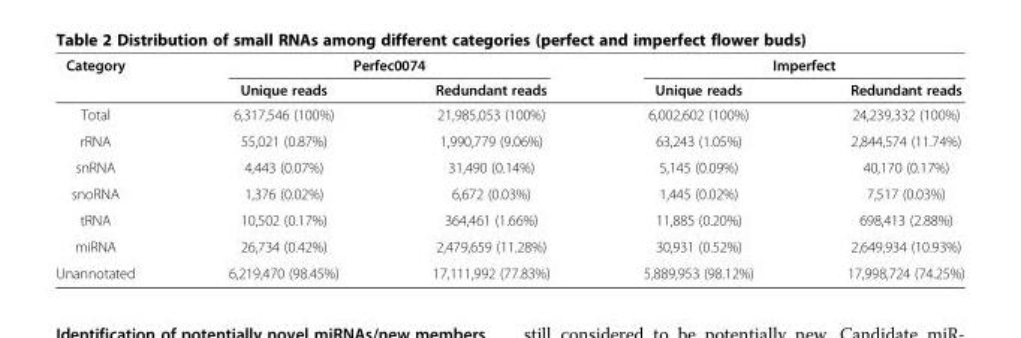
<table><thead><tr><td rowspan="2">Category</td><td colspan="2">Perfec0074</td><td colspan="2">Imperfect</td></tr><tr><td>Unique reads</td><td>Redundant reads</td><td>Unique reads</td><td>Redundant reads</td></tr></thead><tbody><tr><td>Total</td><td>6,317,546 (100%)</td><td>21,985,053 (100%)</td><td>6,002,602 (100%)</td><td>24,239,332 (100%)</td></tr><tr><td>rRNA</td><td>55,021 (0.87%)</td><td>1,990,779 (9.06%)</td><td>63,243 (1.05%)</td><td>2,844,574 (11.74%)</td></tr><tr><td>snRNA</td><td>4,443 (0.07%)</td><td>31,490 (0.14%)</td><td>5,145 (0.09%)</td><td>40,170 (0.17%)</td></tr><tr><td>snoRNA</td><td>1,376 (0.02%)</td><td>6,672 (0.03%)</td><td>1,445 (0.02%)</td><td>7,517 (0.03%)</td></tr><tr><td>tRNA</td><td>10,502 (0.17%)</td><td>364,461 (1.66%)</td><td>11,885 (0.20%)</td><td>698,413 (2.88%)</td></tr><tr><td>miRNA</td><td>26,734 (0.42%)</td><td>2,479,659 (11.28%)</td><td>30,931 (0.52%)</td><td>2,649,934 (10.93%)</td></tr><tr><td>Unannotated</td><td>6,219,470 (98.45%)</td><td>17,111,992 (77.83%)</td><td>5,889,953 (98.12%)</td><td>17,998,724 (74.25%)</td></tr></tbody></table>